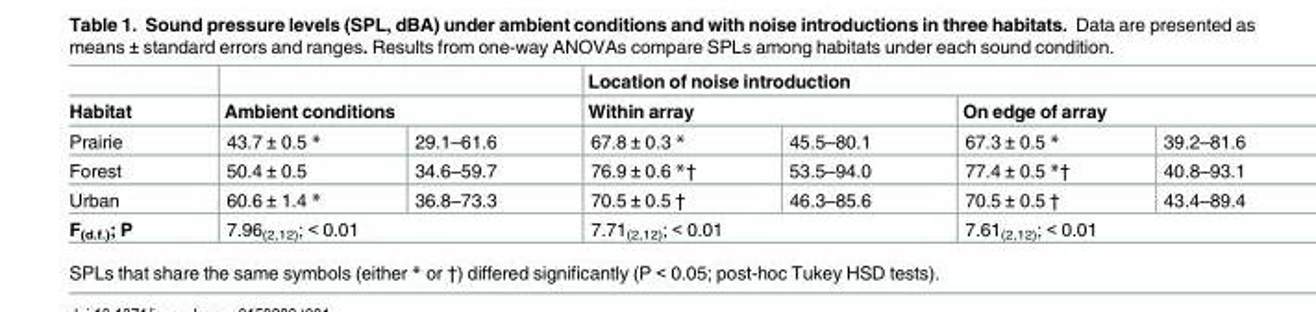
<table><thead><tr><td rowspan="3">Habitat Prairie</td><td></td><td></td><td colspan="4">Location of noise introduction</td></tr><tr><td colspan="2">Ambient conditions</td><td colspan="2">Within array</td><td colspan="2">On edge of array</td></tr><tr><td>43.7 ± 0.5 *</td><td>29.1–61.6</td><td>67.8 ± 0.3 *</td><td>45.5–80.1</td><td>67.3 ± 0.5 *</td><td>39.2–81.6</td></tr></thead><tbody><tr><td>Forest</td><td>50.4 ± 0.5</td><td>34.6–59.7</td><td>76.9 ± 0.6 *†</td><td>53.5–94.0</td><td>77.4 ± 0.5 *†</td><td>40.8–93.1</td></tr><tr><td>Urban</td><td>60.6 ± 1.4 *</td><td>36.8–73.3</td><td>70.5 ± 0.5 †</td><td>46.3–85.6</td><td>70.5 ± 0.5 †</td><td>43.4–89.4</td></tr><tr><td>F<sub>(d.f.)</sub>; P</td><td colspan="2">7.96<sub>(2,12)</sub>; &lt; 0.01</td><td colspan="2">7.71<sub>(2,12)</sub>; &lt; 0.01</td><td colspan="2">7.61<sub>(2,12)</sub>; &lt; 0.01</td></tr></tbody></table>